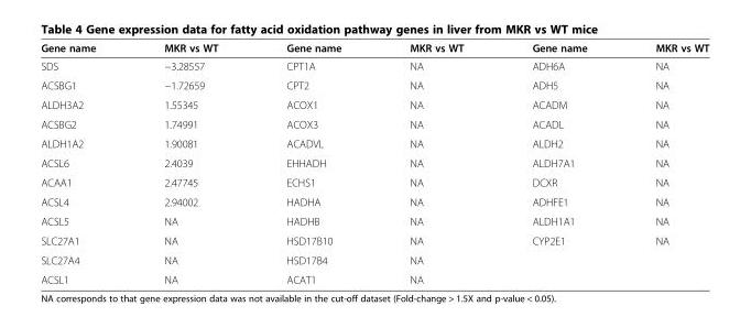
<table><thead><tr><td>Gene name</td><td>MKR vs WT</td><td>Gene name</td><td>MKR vs WT</td><td>Gene name</td><td>MKR vs WT</td></tr></thead><tbody><tr><td>SDS</td><td>−3.28557</td><td>CPT1A</td><td>NA</td><td>ADH6A</td><td>NA</td></tr><tr><td>ACSBG1</td><td>−1.72659</td><td>CPT2</td><td>NA</td><td>ADH5</td><td>NA</td></tr><tr><td>ALDH3A2</td><td>1.55345</td><td>ACOX1</td><td>NA</td><td>ACADM</td><td>NA</td></tr><tr><td>ACSBG2</td><td>1.74991</td><td>ACOX3</td><td>NA</td><td>ACADL</td><td>NA</td></tr><tr><td>ALDH1A2</td><td>1.90081</td><td>ACADVL</td><td>NA</td><td>ALDH2</td><td>NA</td></tr><tr><td>ACSL6</td><td>2.4039</td><td>EHHADH</td><td>NA</td><td>ALDH7A1</td><td>NA</td></tr><tr><td>ACAA1</td><td>2.47745</td><td>ECHS1</td><td>NA</td><td>DCXR</td><td>NA</td></tr><tr><td>ACSL4</td><td>2.94002</td><td>HADHA</td><td>NA</td><td>ADHFE1</td><td>NA</td></tr><tr><td>ACSL5</td><td>NA</td><td>HADHB</td><td>NA</td><td>ALDH1A1</td><td>NA</td></tr><tr><td>SLC27A1</td><td>NA</td><td>HSD17B10</td><td>NA</td><td>CYP2E1</td><td>NA</td></tr><tr><td>SLC27A4</td><td>NA</td><td>HSD17B4</td><td>NA</td><td></td><td></td></tr><tr><td>ACSL1</td><td>NA</td><td>ACAT1</td><td>NA</td><td></td><td></td></tr></tbody></table>